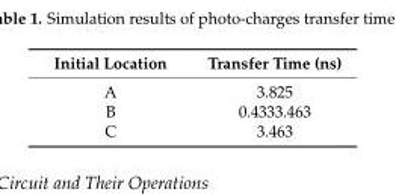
<table><thead><tr><td>Initial Location</td><td>Transfer Time (ns)</td></tr></thead><tbody><tr><td>A</td><td>3.825</td></tr><tr><td>B</td><td>0.4333.463</td></tr><tr><td>C</td><td>3.463</td></tr></tbody></table>